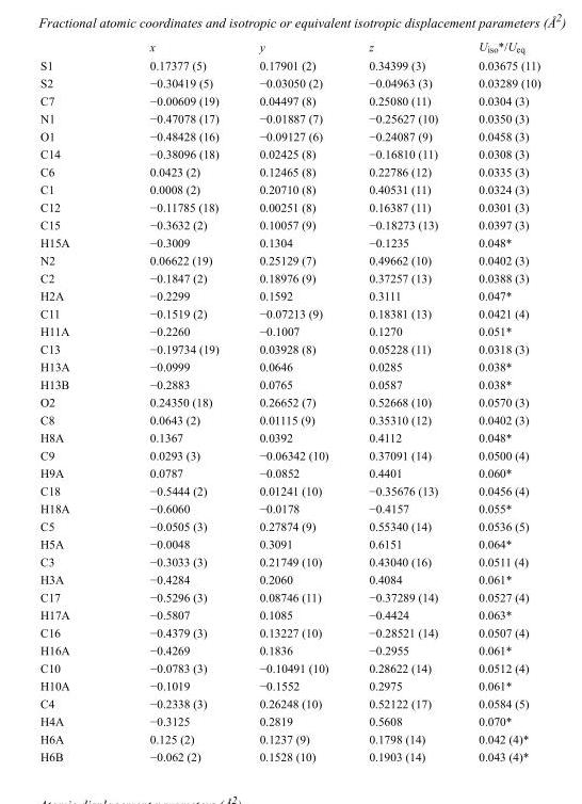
<table><thead><tr><td></td><td>x</td><td>y</td><td>z</td><td>U<sub>iso</sub>*/U<sub>eq</sub></td></tr></thead><tbody><tr><td>S1</td><td>0.17377 (5)</td><td>0.17901 (2)</td><td>0.34399 (3)</td><td>0.03675 (11)</td></tr><tr><td>S2</td><td>−0.30419 (5)</td><td>−0.03050 (2)</td><td>−0.04963 (3)</td><td>0.03289 (10)</td></tr><tr><td>C7</td><td>−0.00609 (19)</td><td>0.04497 (8)</td><td>0.25080 (11)</td><td>0.0304 (3)</td></tr><tr><td>N1</td><td>−0.47078 (17)</td><td>−0.01887 (7)</td><td>−0.25627 (10)</td><td>0.0350 (3)</td></tr><tr><td>O1</td><td>−0.48428 (16)</td><td>−0.09127 (6)</td><td>−0.24087 (9)</td><td>0.0458 (3)</td></tr><tr><td>C14</td><td>−0.38096 (18)</td><td>0.02425 (8)</td><td>−0.16810 (11)</td><td>0.0308 (3)</td></tr><tr><td>C6</td><td>0.0423 (2)</td><td>0.12465 (8)</td><td>0.22786 (12)</td><td>0.0335 (3)</td></tr><tr><td>C1</td><td>0.0008 (2)</td><td>0.20710 (8)</td><td>0.40531 (11)</td><td>0.0324 (3)</td></tr><tr><td>C12</td><td>−0.11785 (18)</td><td>0.00251 (8)</td><td>0.16387 (11)</td><td>0.0301 (3)</td></tr><tr><td>C15</td><td>−0.3632 (2)</td><td>0.10057 (9)</td><td>−0.18273 (13)</td><td>0.0397 (3)</td></tr><tr><td>H15A</td><td>−0.3009</td><td>0.1304</td><td>−0.1235</td><td>0.048*</td></tr><tr><td>N2</td><td>0.06622 (19)</td><td>0.25129 (7)</td><td>0.49662 (10)</td><td>0.0402 (3)</td></tr><tr><td>C2</td><td>−0.1847 (2)</td><td>0.18976 (9)</td><td>0.37257 (13)</td><td>0.0388 (3)</td></tr><tr><td>H2A</td><td>−0.2299</td><td>0.1592</td><td>0.3111</td><td>0.047*</td></tr><tr><td>C11</td><td>−0.1519 (2)</td><td>−0.07213 (9)</td><td>0.18381 (13)</td><td>0.0421 (4)</td></tr><tr><td>H11A</td><td>−0.2260</td><td>−0.1007</td><td>0.1270</td><td>0.051*</td></tr><tr><td>C13</td><td>−0.19734 (19)</td><td>0.03928 (8)</td><td>0.05228 (11)</td><td>0.0318 (3)</td></tr><tr><td>H13A</td><td>−0.0999</td><td>0.0646</td><td>0.0285</td><td>0.038*</td></tr><tr><td>H13B</td><td>−0.2883</td><td>0.0765</td><td>0.0587</td><td>0.038*</td></tr><tr><td>O2</td><td>0.24350 (18)</td><td>0.26652 (7)</td><td>0.52668 (10)</td><td>0.0570 (3)</td></tr><tr><td>C8</td><td>0.0643 (2)</td><td>0.01115 (9)</td><td>0.35310 (12)</td><td>0.0402 (3)</td></tr><tr><td>H8A</td><td>0.1367</td><td>0.0392</td><td>0.4112</td><td>0.048*</td></tr><tr><td>C9</td><td>0.0293 (3)</td><td>−0.06342 (10)</td><td>0.37091 (14)</td><td>0.0500 (4)</td></tr><tr><td>H9A</td><td>0.0787</td><td>−0.0852</td><td>0.4401</td><td>0.060*</td></tr><tr><td>C18</td><td>−0.5444 (2)</td><td>0.01241 (10)</td><td>−0.35676 (13)</td><td>0.0456 (4)</td></tr><tr><td>H18A</td><td>−0.6060</td><td>−0.0178</td><td>−0.4157</td><td>0.055*</td></tr><tr><td>C5</td><td>−0.0505 (3)</td><td>0.27874 (9)</td><td>0.55340 (14)</td><td>0.0536 (5)</td></tr><tr><td>H5A</td><td>−0.0048</td><td>0.3091</td><td>0.6151</td><td>0.064*</td></tr><tr><td>C3</td><td>−0.3033 (3)</td><td>0.21749 (10)</td><td>0.43040 (16)</td><td>0.0511 (4)</td></tr><tr><td>H3A</td><td>−0.4284</td><td>0.2060</td><td>0.4084</td><td>0.061*</td></tr><tr><td>C17</td><td>−0.5296 (3)</td><td>0.08746 (11)</td><td>−0.37289 (14)</td><td>0.0527 (4)</td></tr><tr><td>H17A</td><td>−0.5807</td><td>0.1085</td><td>−0.4424</td><td>0.063*</td></tr><tr><td>C16</td><td>−0.4379 (3)</td><td>0.13227 (10)</td><td>−0.28521 (14)</td><td>0.0507 (4)</td></tr><tr><td>H16A</td><td>−0.4269</td><td>0.1836</td><td>−0.2955</td><td>0.061*</td></tr><tr><td>C10</td><td>−0.0783 (3)</td><td>−0.10491 (10)</td><td>0.28622 (14)</td><td>0.0512 (4)</td></tr><tr><td>H10A</td><td>−0.1019</td><td>−0.1552</td><td>0.2975</td><td>0.061*</td></tr><tr><td>C4</td><td>−0.2338 (3)</td><td>0.26248 (10)</td><td>0.52122 (17)</td><td>0.0584 (5)</td></tr><tr><td>H4A</td><td>−0.3125</td><td>0.2819</td><td>0.5608</td><td>0.070*</td></tr><tr><td>H6A</td><td>0.125 (2)</td><td>0.1237 (9)</td><td>0.1798 (14)</td><td>0.042 (4)*</td></tr><tr><td>H6B</td><td>−0.062 (2)</td><td>0.1528 (10)</td><td>0.1903 (14)</td><td>0.043 (4)*</td></tr></tbody></table>